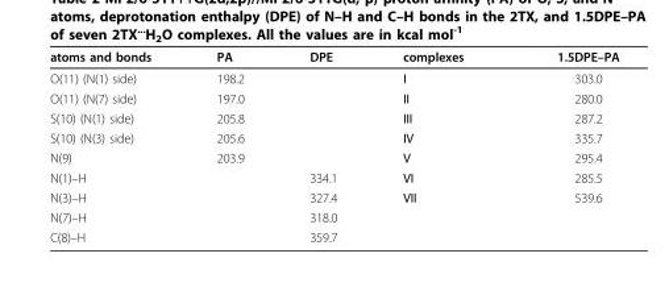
<table><thead><tr><td>atoms and bonds</td><td>PA</td><td>DPE</td><td>complexes</td><td>1.5DPE–PA</td></tr></thead><tbody><tr><td>O(11) (N(1) side)</td><td>198.2</td><td></td><td>I</td><td>303.0</td></tr><tr><td>O(11) (N(7) side)</td><td>197.0</td><td></td><td>II</td><td>280.0</td></tr><tr><td>S(10) (N(1) side)</td><td>205.8</td><td></td><td>III</td><td>287.2</td></tr><tr><td>S(10) (N(3) side)</td><td>205.6</td><td></td><td>IV</td><td>335.7</td></tr><tr><td>N(9)</td><td>203.9</td><td></td><td>V</td><td>295.4</td></tr><tr><td>N(1)–H</td><td></td><td>334.1</td><td>VI</td><td>285.5</td></tr><tr><td>N(3)–H</td><td></td><td>327.4</td><td>VII</td><td>539.6</td></tr><tr><td>N(7)–H</td><td></td><td>318.0</td><td></td><td></td></tr><tr><td>C(8)–H</td><td></td><td>359.7</td><td></td><td></td></tr></tbody></table>